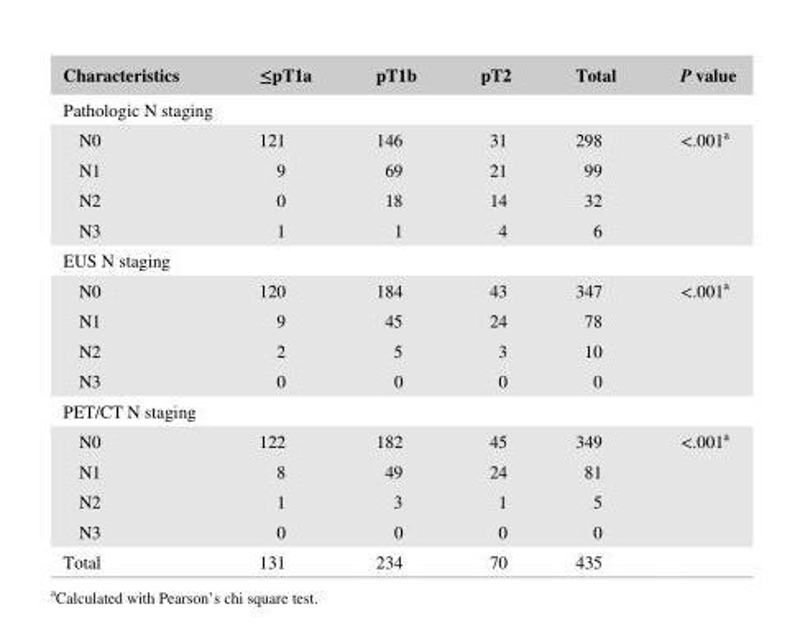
<table><thead><tr><td>Characteristics</td><td>≤pT1a</td><td>pT1b</td><td>pT2</td><td>Total</td><td>P value</td></tr></thead><tbody><tr><td colspan="6">Pathologic N staging</td></tr><tr><td>N0</td><td>121</td><td>146</td><td>31</td><td>298</td><td rowspan="4">&lt;.001<sup>a</sup></td></tr><tr><td>N1</td><td>9</td><td>69</td><td>21</td><td>99</td></tr><tr><td>N2</td><td>0</td><td>18</td><td>14</td><td>32</td></tr><tr><td>N3</td><td>1</td><td>1</td><td>4</td><td>6</td></tr><tr><td colspan="6">EUS N staging</td></tr><tr><td>N0</td><td>120</td><td>184</td><td>43</td><td>347</td><td rowspan="4">&lt;.001<sup>a</sup></td></tr><tr><td>N1</td><td>9</td><td>45</td><td>24</td><td>78</td></tr><tr><td>N2</td><td>2</td><td>5</td><td>3</td><td>10</td></tr><tr><td>N3</td><td>0</td><td>0</td><td>0</td><td>0</td></tr><tr><td colspan="6">PET/CT N staging</td></tr><tr><td>N0</td><td>122</td><td>182</td><td>45</td><td>349</td><td rowspan="4">&lt;.001<sup>a</sup></td></tr><tr><td>N1</td><td>8</td><td>49</td><td>24</td><td>81</td></tr><tr><td>N2</td><td>1</td><td>3</td><td>1</td><td>5</td></tr><tr><td>N3</td><td>0</td><td>0</td><td>0</td><td>0</td></tr><tr><td>Total</td><td>131</td><td>234</td><td>70</td><td>435</td><td></td></tr></tbody></table>